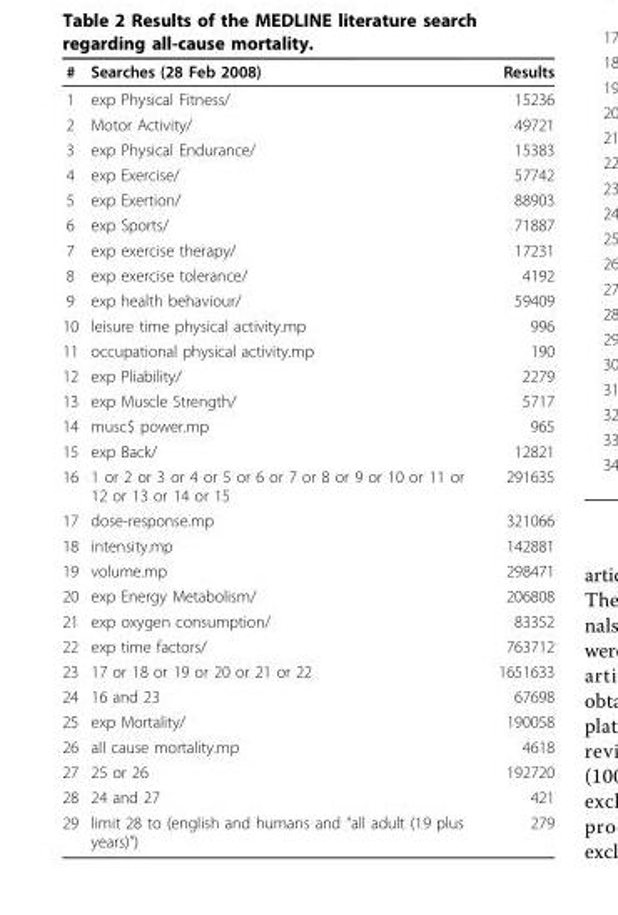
<table><thead><tr><td>#</td><td>Searches (28 Feb 2008)</td><td>Results</td></tr></thead><tbody><tr><td>1</td><td>exp Physical Fitness/</td><td>15236</td></tr><tr><td>2</td><td>Motor Activity/</td><td>49721</td></tr><tr><td>3</td><td>exp Physical Endurance/</td><td>15383</td></tr><tr><td>4</td><td>exp Exercise/</td><td>57742</td></tr><tr><td>5</td><td>exp Exertion/</td><td>88903</td></tr><tr><td>6</td><td>exp Sports/</td><td>71887</td></tr><tr><td>7</td><td>exp exercise therapy/</td><td>17231</td></tr><tr><td>8</td><td>exp exercise tolerance/</td><td>4192</td></tr><tr><td>9</td><td>exp health behaviour/</td><td>59409</td></tr><tr><td>10</td><td>leisure time physical activity.mp</td><td>996</td></tr><tr><td>11</td><td>occupational physical activity.mp</td><td>190</td></tr><tr><td>12</td><td>exp Pliability/</td><td>2279</td></tr><tr><td>13</td><td>exp Muscle Strength/</td><td>5717</td></tr><tr><td>14</td><td>musc$ power.mp</td><td>965</td></tr><tr><td>15</td><td>exp Back/</td><td>12821</td></tr><tr><td>16</td><td>1 or 2 or 3 or 4 or 5 or 6 or 7 or 8 or 9 or 10 or 11 or 12 or 13 or 14 or 15</td><td>291635</td></tr><tr><td>17</td><td>dose-response.mp</td><td>321066</td></tr><tr><td>18</td><td>intensity.mp</td><td>142881</td></tr><tr><td>19</td><td>volume.mp</td><td>298471</td></tr><tr><td>20</td><td>exp Energy Metabolism/</td><td>206808</td></tr><tr><td>21</td><td>exp oxygen consumption/</td><td>83352</td></tr><tr><td>22</td><td>exp time factors/</td><td>763712</td></tr><tr><td>23</td><td>17 or 18 or 19 or 20 or 21 or 22</td><td>1651633</td></tr><tr><td>24</td><td>16 and 23</td><td>67698</td></tr><tr><td>25</td><td>exp Mortality/</td><td>190058</td></tr><tr><td>26</td><td>all cause mortality.mp</td><td>4618</td></tr><tr><td>27</td><td>25 or 26</td><td>192720</td></tr><tr><td>28</td><td>24 and 27</td><td>421</td></tr><tr><td>29</td><td>limit 28 to (english and humans and “all adult (19 plus years)”)</td><td>279</td></tr></tbody></table>